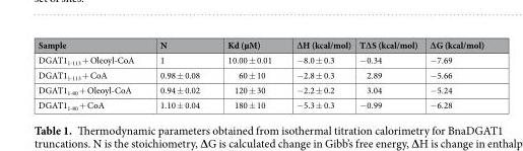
<table><thead><tr><td>Sample</td><td>N</td><td>Kd (µM)</td><td>∆H (kcal/mol)</td><td>T∆S (kcal/mol)</td><td>∆G (kcal/mol)</td></tr></thead><tbody><tr><td>DGAT1<sub>1-113</sub> + Oleoyl-CoA</td><td>1</td><td>10.00 ± 0.01</td><td>−8.0 ± 0.3</td><td>−0.34</td><td>−7.69</td></tr><tr><td>DGAT1<sub>1-113</sub> + CoA</td><td>0.98 ± 0.08</td><td>60 ± 10</td><td>−2.8 ± 0.3</td><td>2.89</td><td>−5.66</td></tr><tr><td>DGAT1<sub>1-80</sub> + Oleoyl-CoA</td><td>0.94 ± 0.02</td><td>120 ± 30</td><td>−2.2 ± 0.2</td><td>3.04</td><td>−5.24</td></tr><tr><td>DGAT1<sub>1-80</sub> + CoA</td><td>1.10 ± 0.04</td><td>180 ± 10</td><td>−5.3 ± 0.3</td><td>−0.99</td><td>−6.28</td></tr></tbody></table>